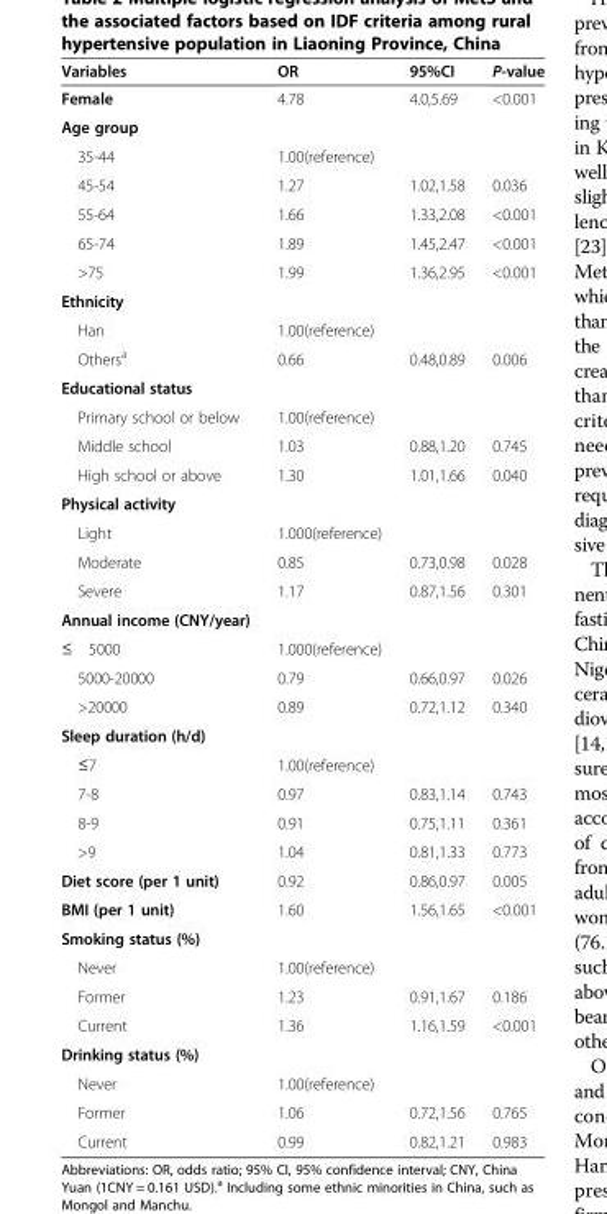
<table><thead><tr><td>Variables</td><td>OR</td><td>95%CI</td><td>P-value</td></tr></thead><tbody><tr><td>Female</td><td>4.78</td><td>4.0,5.69</td><td>&lt;0.001</td></tr><tr><td colspan="4">Age group</td></tr><tr><td>35-44</td><td>1.00(reference)</td><td></td><td></td></tr><tr><td>45-54</td><td>1.27</td><td>1.02,1.58</td><td>0.036</td></tr><tr><td>55-64</td><td>1.66</td><td>1.33,2.08</td><td>&lt;0.001</td></tr><tr><td>65-74</td><td>1.89</td><td>1.45,2.47</td><td>&lt;0.001</td></tr><tr><td>&gt;75</td><td>1.99</td><td>1.36,2.95</td><td>&lt;0.001</td></tr><tr><td colspan="4">Ethnicity</td></tr><tr><td>Han</td><td>1.00(reference)</td><td></td><td></td></tr><tr><td>Others<sup>a</sup></td><td>0.66</td><td>0.48,0.89</td><td>0.006</td></tr><tr><td colspan="4">Educational status</td></tr><tr><td>Primary school or below</td><td>1.00(reference)</td><td></td><td></td></tr><tr><td>Middle school</td><td>1.03</td><td>0.88,1.20</td><td>0.745</td></tr><tr><td>High school or above</td><td>1.30</td><td>1.01,1.66</td><td>0.040</td></tr><tr><td colspan="4">Physical activity</td></tr><tr><td>Light</td><td>1.000(reference)</td><td></td><td></td></tr><tr><td>Moderate</td><td>0.85</td><td>0.73,0.98</td><td>0.028</td></tr><tr><td>Severe</td><td>1.17</td><td>0.87,1.56</td><td>0.301</td></tr><tr><td colspan="4">Annual income (CNY/year)</td></tr><tr><td>≤ 5000</td><td>1.000(reference)</td><td></td><td></td></tr><tr><td>5000-20000</td><td>0.79</td><td>0.66,0.97</td><td>0.026</td></tr><tr><td>&gt;20000</td><td>0.89</td><td>0.72,1.12</td><td>0.340</td></tr><tr><td colspan="4">Sleep duration (h/d)</td></tr><tr><td>≤7</td><td>1.00(reference)</td><td></td><td></td></tr><tr><td>7-8</td><td>0.97</td><td>0.83,1.14</td><td>0.743</td></tr><tr><td>8-9</td><td>0.91</td><td>0.75,1.11</td><td>0.361</td></tr><tr><td>&gt;9</td><td>1.04</td><td>0.81,1.33</td><td>0.773</td></tr><tr><td>Diet score (per 1 unit)</td><td>0.92</td><td>0.86,0.97</td><td>0.005</td></tr><tr><td>BMI (per 1 unit)</td><td>1.60</td><td>1.56,1.65</td><td>&lt;0.001</td></tr><tr><td colspan="4">Smoking status (%)</td></tr><tr><td>Never</td><td>1.00(reference)</td><td></td><td></td></tr><tr><td>Former</td><td>1.23</td><td>0.91,1.67</td><td>0.186</td></tr><tr><td>Current</td><td>1.36</td><td>1.16,1.59</td><td>&lt;0.001</td></tr><tr><td colspan="4">Drinking status (%)</td></tr><tr><td>Never</td><td>1.00(reference)</td><td></td><td></td></tr><tr><td>Former</td><td>1.06</td><td>0.72,1.56</td><td>0.765</td></tr><tr><td>Current</td><td>0.99</td><td>0.82,1.21</td><td>0.983</td></tr></tbody></table>